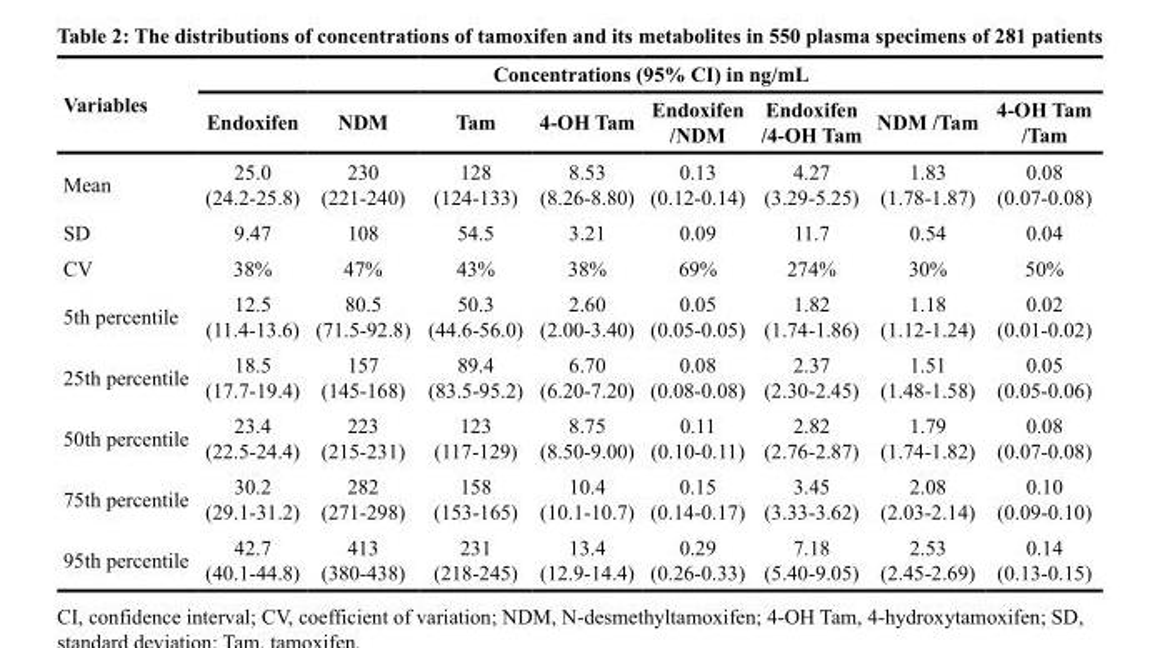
<table><thead><tr><td rowspan="2">Variables</td><td colspan="8">Concentrations (95% CI) in ng/mL</td></tr><tr><td>Endoxifen</td><td>NDM</td><td>Tam</td><td>4-OH Tam</td><td>Endoxifen /NDM</td><td>Endoxifen /4-OH Tam</td><td>NDM /Tam</td><td>4-OH Tam /Tam</td></tr></thead><tbody><tr><td>Mean</td><td>25.0 (24.2-25.8)</td><td>230 (221-240)</td><td>128 (124-133)</td><td>8.53 (8.26-8.80)</td><td>0.13 (0.12-0.14)</td><td>4.27 (3.29-5.25)</td><td>1.83 (1.78-1.87)</td><td>0.08 (0.07-0.08)</td></tr><tr><td>SD</td><td>9.47</td><td>108</td><td>54.5</td><td>3.21</td><td>0.09</td><td>11.7</td><td>0.54</td><td>0.04</td></tr><tr><td>CV</td><td>38%</td><td>47%</td><td>43%</td><td>38%</td><td>69%</td><td>274%</td><td>30%</td><td>50%</td></tr><tr><td>5th percentile</td><td>12.5 (11.4-13.6)</td><td>80.5 (71.5-92.8)</td><td>50.3 (44.6-56.0)</td><td>2.60 (2.00-3.40)</td><td>0.05 (0.05-0.05)</td><td>1.82 (1.74-1.86)</td><td>1.18 (1.12-1.24)</td><td>0.02 (0.01-0.02)</td></tr><tr><td>25th percentile</td><td>18.5 (17.7-19.4)</td><td>157 (145-168)</td><td>89.4 (83.5-95.2)</td><td>6.70 (6.20-7.20)</td><td>0.08 (0.08-0.08)</td><td>2.37 (2.30-2.45)</td><td>1.51 (1.48-1.58)</td><td>0.05 (0.05-0.06)</td></tr><tr><td>50th percentile</td><td>23.4 (22.5-24.4)</td><td>223 (215-231)</td><td>123 (117-129)</td><td>8.75 (8.50-9.00)</td><td>0.11 (0.10-0.11)</td><td>2.82 (2.76-2.87)</td><td>1.79 (1.74-1.82)</td><td>0.08 (0.07-0.08)</td></tr><tr><td>75th percentile</td><td>30.2 (29.1-31.2)</td><td>282 (271-298)</td><td>158 (153-165)</td><td>10.4 (10.1-10.7)</td><td>0.15 (0.14-0.17)</td><td>3.45 (3.33-3.62)</td><td>2.08 (2.03-2.14)</td><td>0.10 (0.09-0.10)</td></tr><tr><td>95th percentile</td><td>42.7 (40.1-44.8)</td><td>413 (380-438)</td><td>231 (218-245)</td><td>13.4 (12.9-14.4)</td><td>0.29 (0.26-0.33)</td><td>7.18 (5.40-9.05)</td><td>2.53 (2.45-2.69)</td><td>0.14 (0.13-0.15)</td></tr></tbody></table>